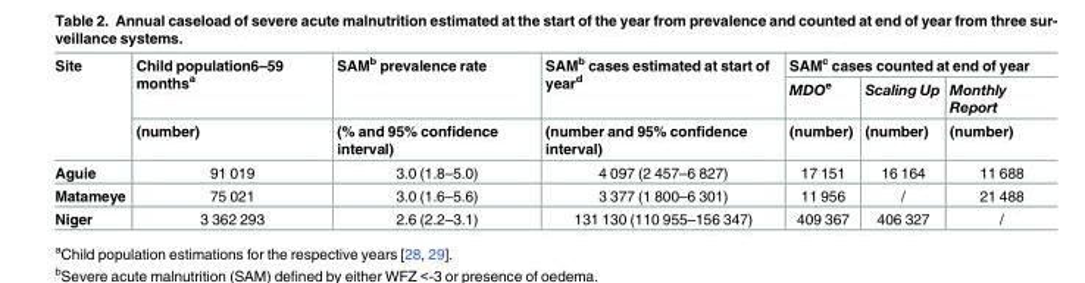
<table><thead><tr><td rowspan="3">Site</td><td rowspan="3">Child population6–59 months<sup>a</sup> (number)</td><td rowspan="3">SAM<sup>b</sup> prevalence rate (% and 95% confidence interval)</td><td rowspan="3">SAM<sup>b</sup> cases estimated at start of year<sup>d</sup> (number and 95% confidence interval)</td><td colspan="3">SAM<sup>c</sup> cases counted at end of year</td></tr><tr><td rowspan="2">MDO<sup>e</sup> (number)</td><td rowspan="2">Scaling Up (number)</td><td rowspan="2">Monthly Report (number)</td></tr><tr></tr></thead><tbody><tr><td>Aguie</td><td>91 019</td><td>3.0 (1.8–5.0)</td><td>4 097 (2 457–6 827)</td><td>17 151</td><td>16 164</td><td>11 688</td></tr><tr><td>Matameye</td><td>75 021</td><td>3.0 (1.6–5.6)</td><td>3 377 (1 800–6 301)</td><td>11 956</td><td>/</td><td>21 488</td></tr><tr><td>Niger</td><td>3 362 293</td><td>2.6 (2.2–3.1)</td><td>131 130 (110 955–156 347)</td><td>409 367</td><td>406 327</td><td>/</td></tr></tbody></table>